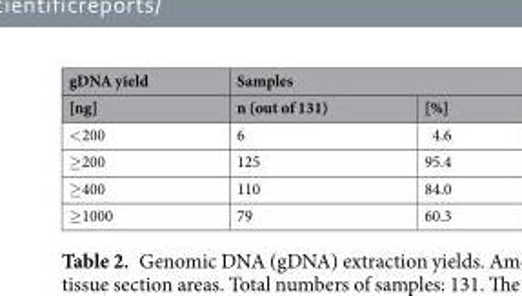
<table><thead><tr><td rowspan="2">gDNA yield [ng]</td><td colspan="2">Samples</td></tr><tr><td>n (out of 131)</td><td>[%]</td></tr></thead><tbody><tr><td>&lt;200</td><td>6</td><td>4.6</td></tr><tr><td>≥200</td><td>125</td><td>95.4</td></tr><tr><td>≥400</td><td>110</td><td>84.0</td></tr><tr><td>≥1000</td><td>79</td><td>60.3</td></tr></tbody></table>